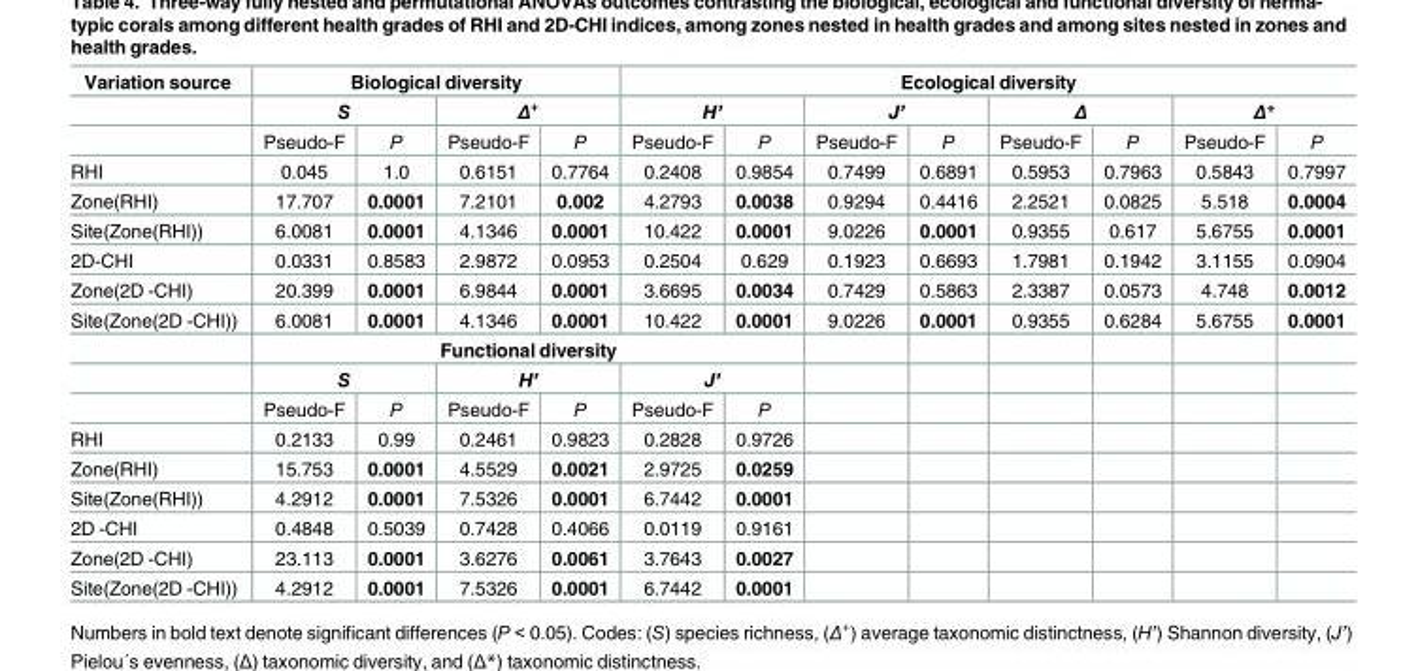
<table><tbody><tr><td rowspan="3">Variation source</td><td colspan="4">Biological diversity</td><td colspan="8">Ecological diversity</td></tr><tr><td colspan="2">S</td><td colspan="2">Δ<sup>+</sup></td><td colspan="2">H’</td><td colspan="2">J’</td><td colspan="2">Δ</td><td colspan="2">Δ*</td></tr><tr><td>Pseudo-F</td><td>P</td><td>Pseudo-F</td><td>P</td><td>Pseudo-F</td><td>P</td><td>Pseudo-F</td><td>P</td><td>Pseudo-F</td><td>P</td><td>Pseudo-F</td><td>P</td></tr><tr><td>RHI</td><td>0.045</td><td>1.0</td><td>0.6151</td><td>0.7764</td><td>0.2408</td><td>0.9854</td><td>0.7499</td><td>0.6891</td><td>0.5953</td><td>0.7963</td><td>0.5843</td><td>0.7997</td></tr><tr><td>Zone(RHI)</td><td>17.707</td><td>0.0001</td><td>7.2101</td><td>0.002</td><td>4.2793</td><td>0.0038</td><td>0.9294</td><td>0.4416</td><td>2.2521</td><td>0.0825</td><td>5.518</td><td>0.0004</td></tr><tr><td>Site(Zone(RHI))</td><td>6.0081</td><td>0.0001</td><td>4.1346</td><td>0.0001</td><td>10.422</td><td>0.0001</td><td>9.0226</td><td>0.0001</td><td>0.9355</td><td>0.617</td><td>5.6755</td><td>0.0001</td></tr><tr><td>2D-CHI</td><td>0.0331</td><td>0.8583</td><td>2.9872</td><td>0.0953</td><td>0.2504</td><td>0.629</td><td>0.1923</td><td>0.6693</td><td>1.7981</td><td>0.1942</td><td>3.1155</td><td>0.0904</td></tr><tr><td>Zone(2D -CHI)</td><td>20.399</td><td>0.0001</td><td>6.9844</td><td>0.0001</td><td>3.6695</td><td>0.0034</td><td>0.7429</td><td>0.5863</td><td>2.3387</td><td>0.0573</td><td>4.748</td><td>0.0012</td></tr><tr><td rowspan="4">Site(Zone(2D -CHI))</td><td>6.0081</td><td>0.0001</td><td>4.1346</td><td>0.0001</td><td>10.422</td><td>0.0001</td><td>9.0226</td><td>0.0001</td><td>0.9355</td><td>0.6284</td><td>5.6755</td><td>0.0001</td></tr><tr><td colspan="6">Functional diversity</td><td></td><td></td><td></td><td></td><td></td><td></td></tr><tr><td colspan="2">S</td><td colspan="2">H’</td><td colspan="2">J’</td><td></td><td></td><td></td><td></td><td></td><td></td></tr><tr><td>Pseudo-F</td><td>P</td><td>Pseudo-F</td><td>P</td><td>Pseudo-F</td><td>P</td><td></td><td></td><td></td><td></td><td></td><td></td></tr><tr><td>RHI</td><td>0.2133</td><td>0.99</td><td>0.2461</td><td>0.9823</td><td>0.2828</td><td>0.9726</td><td></td><td></td><td></td><td></td><td></td><td></td></tr><tr><td>Zone(RHI)</td><td>15.753</td><td>0.0001</td><td>4.5529</td><td>0.0021</td><td>2.9725</td><td>0.0259</td><td></td><td></td><td></td><td></td><td></td><td></td></tr><tr><td>Site(Zone(RHI))</td><td>4.2912</td><td>0.0001</td><td>7.5326</td><td>0.0001</td><td>6.7442</td><td>0.0001</td><td></td><td></td><td></td><td></td><td></td><td></td></tr><tr><td>2D -CHI</td><td>0.4848</td><td>0.5039</td><td>0.7428</td><td>0.4066</td><td>0.0119</td><td>0.9161</td><td></td><td></td><td></td><td></td><td></td><td></td></tr><tr><td>Zone(2D -CHI)</td><td>23.113</td><td>0.0001</td><td>3.6276</td><td>0.0061</td><td>3.7643</td><td>0.0027</td><td></td><td></td><td></td><td></td><td></td><td></td></tr><tr><td>Site(Zone(2D -CHI))</td><td>4.2912</td><td>0.0001</td><td>7.5326</td><td>0.0001</td><td>6.7442</td><td>0.0001</td><td></td><td></td><td></td><td></td><td></td><td></td></tr></tbody></table>